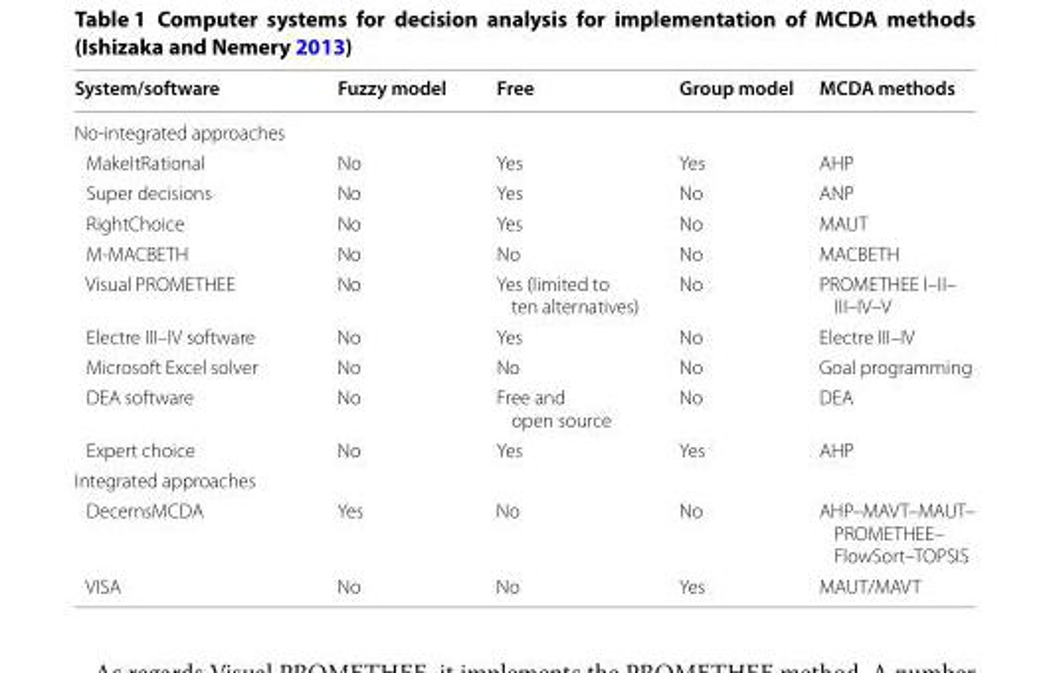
<table><thead><tr><td>System/software</td><td>Fuzzy model</td><td>Free</td><td>Group model</td><td>MCDA methods</td></tr></thead><tbody><tr><td colspan="5">No-integrated approaches</td></tr><tr><td>MakeItRational</td><td>No</td><td>Yes</td><td>Yes</td><td>AHP</td></tr><tr><td>Super decisions</td><td>No</td><td>Yes</td><td>No</td><td>ANP</td></tr><tr><td>RightChoice</td><td>No</td><td>Yes</td><td>No</td><td>MAUT</td></tr><tr><td>M-MACBETH</td><td>No</td><td>No</td><td>No</td><td>MACBETH</td></tr><tr><td>Visual PROMETHEE</td><td>No</td><td>Yes (limited to ten alternatives)</td><td>No</td><td>PROMETHEE I–II– III–IV–V</td></tr><tr><td>Electre III–IV software</td><td>No</td><td>Yes</td><td>No</td><td>Electre III–IV</td></tr><tr><td>Microsoft Excel solver</td><td>No</td><td>No</td><td>No</td><td>Goal programming</td></tr><tr><td>DEA software</td><td>No</td><td>Free and open source</td><td>No</td><td>DEA</td></tr><tr><td>Expert choice</td><td>No</td><td>Yes</td><td>Yes</td><td>AHP</td></tr><tr><td colspan="5">Integrated approaches</td></tr><tr><td>DecernsMCDA</td><td>Yes</td><td>No</td><td>No</td><td>AHP–MAVT–MAUT– PROMETHEE– FlowSort–TOPSIS</td></tr><tr><td>VISA</td><td>No</td><td>No</td><td>Yes</td><td>MAUT/MAVT</td></tr></tbody></table>